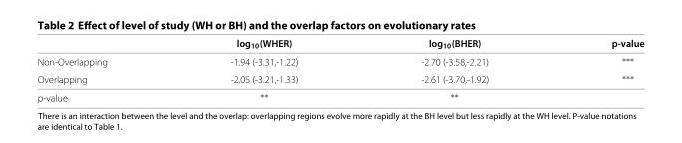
<table><thead><tr><td></td><td>log<sub>10</sub>(WHER)</td><td>log<sub>10</sub>(BHER)</td><td>p-value</td></tr></thead><tbody><tr><td>Non-Overlapping</td><td>-1.94 (-3.31,-1.22)</td><td>-2.70 (-3.58,-2.21)</td><td>∗∗∗</td></tr><tr><td>Overlapping</td><td>-2.05 (-3.21,-1.33)</td><td>-2.61 (-3.70,-1.92)</td><td>∗∗∗</td></tr><tr><td>p-value</td><td>∗∗</td><td>∗∗</td><td></td></tr></tbody></table>